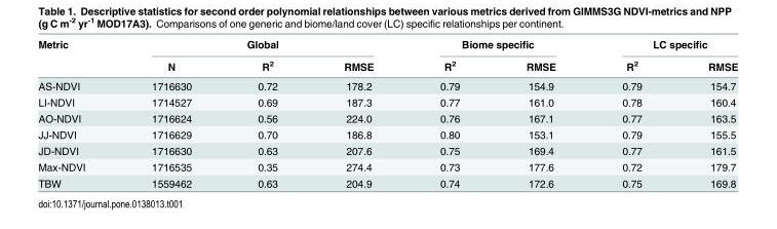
<table><thead><tr><td rowspan="2">Metric</td><td colspan="3">Global</td><td colspan="2">Biome specific</td><td colspan="2">LC specific</td></tr><tr><td>N</td><td>R<sup>2</sup></td><td>RMSE</td><td>R<sup>2</sup></td><td>RMSE</td><td>R<sup>2</sup></td><td>RMSE</td></tr></thead><tbody><tr><td>AS-NDVI</td><td>1716630</td><td>0.72</td><td>178.2</td><td>0.79</td><td>154.9</td><td>0.79</td><td>154.7</td></tr><tr><td>LI-NDVI</td><td>1714527</td><td>0.69</td><td>187.3</td><td>0.77</td><td>161.0</td><td>0.78</td><td>160.4</td></tr><tr><td>AO-NDVI</td><td>1716624</td><td>0.56</td><td>224.0</td><td>0.76</td><td>167.1</td><td>0.77</td><td>163.5</td></tr><tr><td>JJ-NDVI</td><td>1716629</td><td>0.70</td><td>186.8</td><td>0.80</td><td>153.1</td><td>0.79</td><td>155.5</td></tr><tr><td>JD-NDVI</td><td>1716630</td><td>0.63</td><td>207.6</td><td>0.75</td><td>169.4</td><td>0.77</td><td>161.5</td></tr><tr><td>Max-NDVI</td><td>1716535</td><td>0.35</td><td>274.4</td><td>0.73</td><td>177.6</td><td>0.72</td><td>179.7</td></tr><tr><td>TBW</td><td>1559462</td><td>0.63</td><td>204.9</td><td>0.74</td><td>172.6</td><td>0.75</td><td>169.8</td></tr></tbody></table>